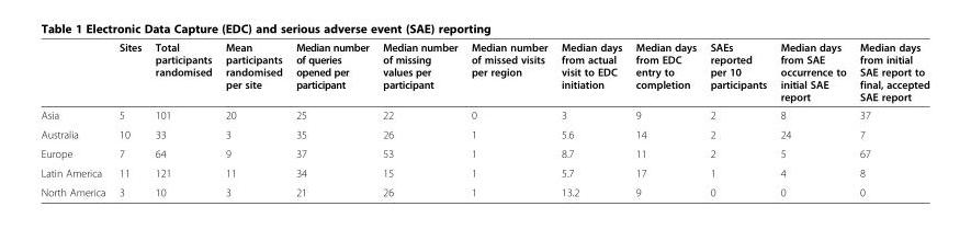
<table><thead><tr><td></td><td>Sites</td><td>Total participants randomised</td><td>Mean participants randomised per site</td><td>Median number of queries opened per participant</td><td>Median number of missing values per participant</td><td>Median number of missed visits per region</td><td>Median days from actual visit to EDC initiation</td><td>Median days from EDC entry to completion</td><td>SAEs reported per 10 participants</td><td>Median days from SAE occurrence to initial SAE report</td><td>Median days from initial SAE report to final, accepted SAE report</td></tr></thead><tbody><tr><td>Asia</td><td>5</td><td>101</td><td>20</td><td>25</td><td>22</td><td>0</td><td>3</td><td>9</td><td>2</td><td>8</td><td>37</td></tr><tr><td>Australia</td><td>10</td><td>33</td><td>3</td><td>35</td><td>26</td><td>1</td><td>5.6</td><td>14</td><td>2</td><td>24</td><td>7</td></tr><tr><td>Europe</td><td>7</td><td>64</td><td>9</td><td>37</td><td>53</td><td>1</td><td>8.7</td><td>11</td><td>2</td><td>5</td><td>67</td></tr><tr><td>Latin America</td><td>11</td><td>121</td><td>11</td><td>34</td><td>15</td><td>1</td><td>5.7</td><td>17</td><td>1</td><td>4</td><td>8</td></tr><tr><td>North America</td><td>3</td><td>10</td><td>3</td><td>21</td><td>26</td><td>1</td><td>13.2</td><td>9</td><td>0</td><td>0</td><td>0</td></tr></tbody></table>